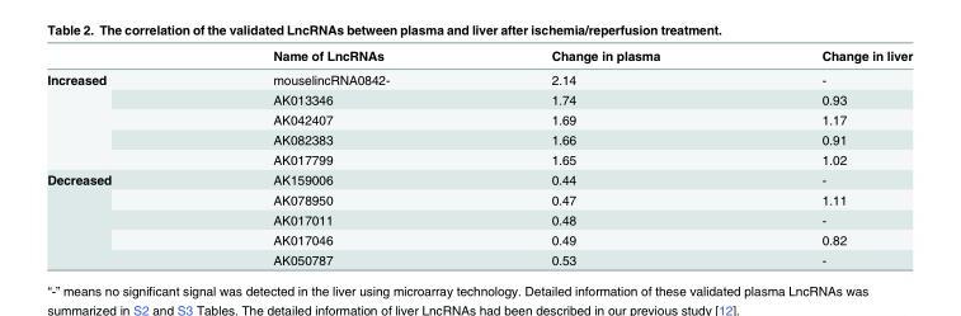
<table><thead><tr><td></td><td>Name of LncRNAs</td><td>Change in plasma</td><td>Change in liver</td></tr></thead><tbody><tr><td rowspan="5">Increased</td><td>mouselincRNA0842-</td><td>2.14</td><td>-</td></tr><tr><td>AK013346</td><td>1.74</td><td>0.93</td></tr><tr><td>AK042407</td><td>1.69</td><td>1.17</td></tr><tr><td>AK082383</td><td>1.66</td><td>0.91</td></tr><tr><td>AK017799</td><td>1.65</td><td>1.02</td></tr><tr><td rowspan="5">Decreased</td><td>AK159006</td><td>0.44</td><td>-</td></tr><tr><td>AK078950</td><td>0.47</td><td>1.11</td></tr><tr><td>AK017011</td><td>0.48</td><td>-</td></tr><tr><td>AK017046</td><td>0.49</td><td>0.82</td></tr><tr><td>AK050787</td><td>0.53</td><td>-</td></tr></tbody></table>